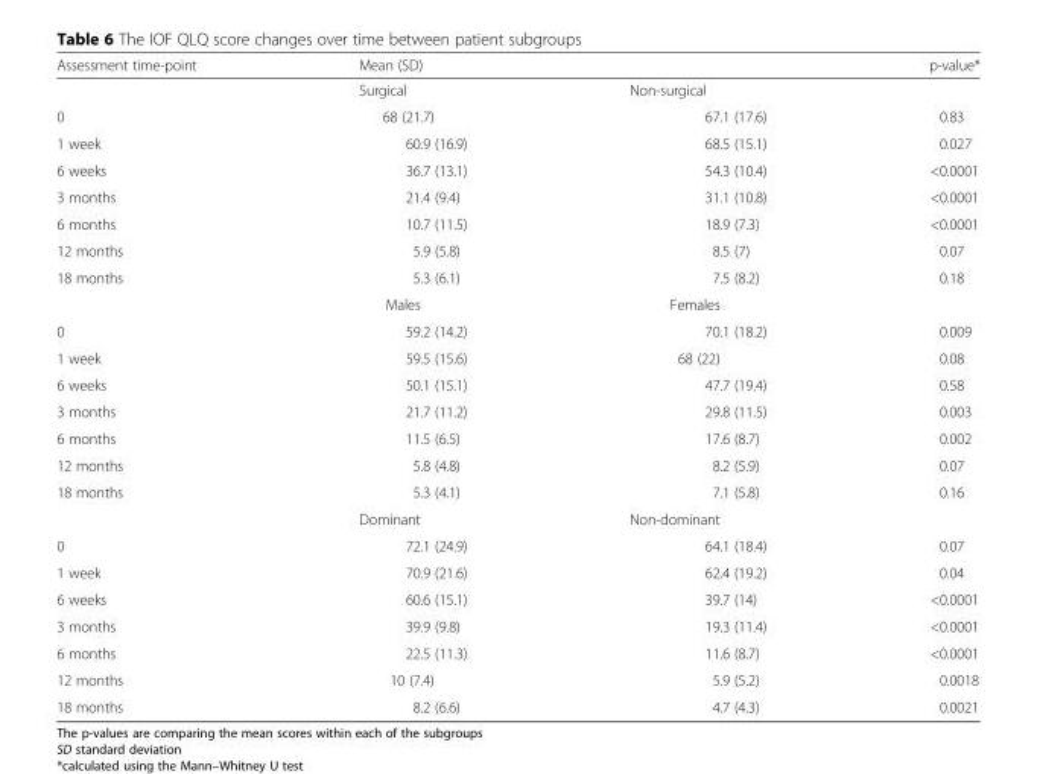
<table><thead><tr><td rowspan="2">Assessment time-point</td><td colspan="2">Mean (SD)</td><td rowspan="2">p-value*</td></tr><tr><td>Surgical</td><td>Non-surgical</td></tr></thead><tbody><tr><td>0</td><td>68 (21.7)</td><td>67.1 (17.6)</td><td>0.83</td></tr><tr><td>1 week</td><td>60.9 (16.9)</td><td>68.5 (15.1)</td><td>0.027</td></tr><tr><td>6 weeks</td><td>36.7 (13.1)</td><td>54.3 (10.4)</td><td>&lt;0.0001</td></tr><tr><td>3 months</td><td>21.4 (9.4)</td><td>31.1 (10.8)</td><td>&lt;0.0001</td></tr><tr><td>6 months</td><td>10.7 (11.5)</td><td>18.9 (7.3)</td><td>&lt;0.0001</td></tr><tr><td>12 months</td><td>5.9 (5.8)</td><td>8.5 (7)</td><td>0.07</td></tr><tr><td rowspan="2">18 months</td><td>5.3 (6.1)</td><td>7.5 (8.2)</td><td>0.18</td></tr><tr><td>Males</td><td>Females</td><td></td></tr><tr><td>0</td><td>59.2 (14.2)</td><td>70.1 (18.2)</td><td>0.009</td></tr><tr><td>1 week</td><td>59.5 (15.6)</td><td>68 (22)</td><td>0.08</td></tr><tr><td>6 weeks</td><td>50.1 (15.1)</td><td>47.7 (19.4)</td><td>0.58</td></tr><tr><td>3 months</td><td>21.7 (11.2)</td><td>29.8 (11.5)</td><td>0.003</td></tr><tr><td>6 months</td><td>11.5 (6.5)</td><td>17.6 (8.7)</td><td>0.002</td></tr><tr><td>12 months</td><td>5.8 (4.8)</td><td>8.2 (5.9)</td><td>0.07</td></tr><tr><td rowspan="2">18 months</td><td>5.3 (4.1)</td><td>7.1 (5.8)</td><td>0.16</td></tr><tr><td>Dominant</td><td>Non-dominant</td><td></td></tr><tr><td>0</td><td>72.1 (24.9)</td><td>64.1 (18.4)</td><td>0.07</td></tr><tr><td>1 week</td><td>70.9 (21.6)</td><td>62.4 (19.2)</td><td>0.04</td></tr><tr><td>6 weeks</td><td>60.6 (15.1)</td><td>39.7 (14)</td><td>&lt;0.0001</td></tr><tr><td>3 months</td><td>39.9 (9.8)</td><td>19.3 (11.4)</td><td>&lt;0.0001</td></tr><tr><td>6 months</td><td>22.5 (11.3)</td><td>11.6 (8.7)</td><td>&lt;0.0001</td></tr><tr><td>12 months</td><td>10 (7.4)</td><td>5.9 (5.2)</td><td>0.0018</td></tr><tr><td>18 months</td><td>8.2 (6.6)</td><td>4.7 (4.3)</td><td>0.0021</td></tr></tbody></table>